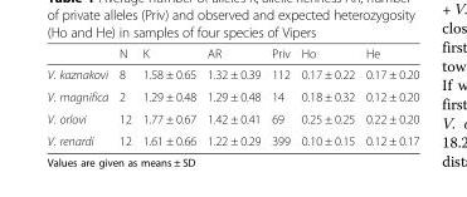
<table><thead><tr><td></td><td>N</td><td>K</td><td>AR</td><td>Priv</td><td>Ho</td><td>He</td></tr></thead><tbody><tr><td>V. kaznakovi</td><td>8</td><td>1.58 ± 0.65</td><td>1.32 ± 0.39</td><td>112</td><td>0.17 ± 0.22</td><td>0.17 ± 0.20</td></tr><tr><td>V. magnifica</td><td>2</td><td>1.29 ± 0.48</td><td>1.29 ± 0.48</td><td>14</td><td>0.18 ± 0.32</td><td>0.12 ± 0.20</td></tr><tr><td>V. orlovi</td><td>12</td><td>1.77 ± 0.67</td><td>1.42 ± 0.41</td><td>69</td><td>0.25 ± 0.25</td><td>0.22 ± 0.20</td></tr><tr><td>V. renardi</td><td>12</td><td>1.61 ± 0.66</td><td>1.22 ± 0.29</td><td>399</td><td>0.10 ± 0.15</td><td>0.12 ± 0.17</td></tr></tbody></table>